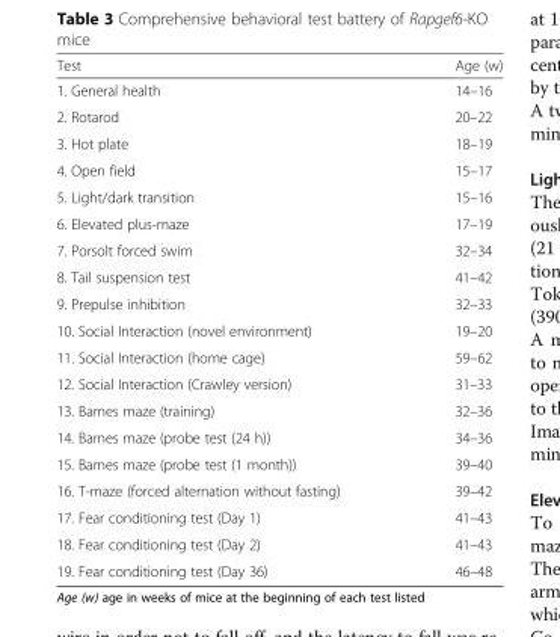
<table><thead><tr><td>Test</td><td>Age (w)</td></tr></thead><tbody><tr><td>1. General health</td><td>14–16</td></tr><tr><td>2. Rotarod</td><td>20–22</td></tr><tr><td>3. Hot plate</td><td>18–19</td></tr><tr><td>4. Open field</td><td>15–17</td></tr><tr><td>5. Light/dark transition</td><td>15–16</td></tr><tr><td>6. Elevated plus-maze</td><td>17–19</td></tr><tr><td>7. Porsolt forced swim</td><td>32–34</td></tr><tr><td>8. Tail suspension test</td><td>41–42</td></tr><tr><td>9. Prepulse inhibition</td><td>32–33</td></tr><tr><td>10. Social Interaction (novel environment)</td><td>19–20</td></tr><tr><td>11. Social Interaction (home cage)</td><td>59–62</td></tr><tr><td>12. Social Interaction (Crawley version)</td><td>31–33</td></tr><tr><td>13. Barnes maze (training)</td><td>32–36</td></tr><tr><td>14. Barnes maze (probe test (24 h))</td><td>34–36</td></tr><tr><td>15. Barnes maze (probe test (1 month))</td><td>39–40</td></tr><tr><td>16. T-maze (forced alternation without fasting)</td><td>39–42</td></tr><tr><td>17. Fear conditioning test (Day 1)</td><td>41–43</td></tr><tr><td>18. Fear conditioning test (Day 2)</td><td>41–43</td></tr><tr><td>19. Fear conditioning test (Day 36)</td><td>46–48</td></tr></tbody></table>